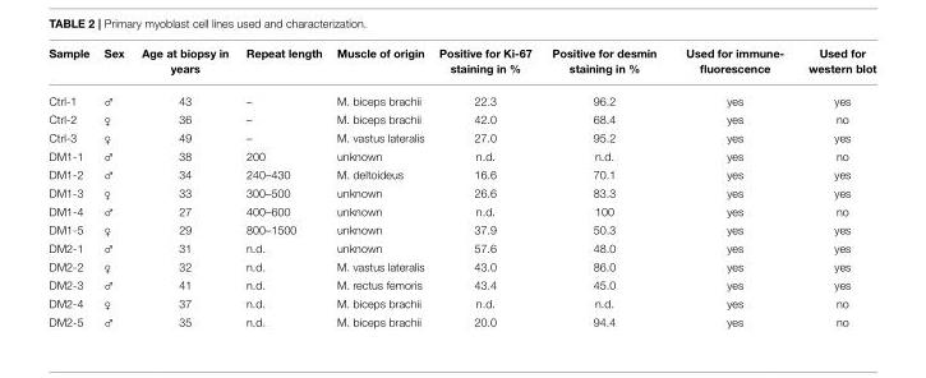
<table><thead><tr><td>Sample</td><td>Sex</td><td>Age at biopsy in years</td><td>Repeat length</td><td>Muscle of origin</td><td>Positive for Ki-67 staining in %</td><td>Positive for desmin staining in %</td><td>Used for immune- fluorescence</td><td>Used for western blot</td></tr></thead><tbody><tr><td>Ctrl-1</td><td>♂</td><td>43</td><td>–</td><td>M. biceps brachii</td><td>22.3</td><td>96.2</td><td>yes</td><td>yes</td></tr><tr><td>Ctrl-2</td><td>♀</td><td>36</td><td>–</td><td>M. biceps brachii</td><td>42.0</td><td>68.4</td><td>yes</td><td>no</td></tr><tr><td>Ctrl-3</td><td>♀</td><td>49</td><td>–</td><td>M. vastus lateralis</td><td>27.0</td><td>95.2</td><td>yes</td><td>yes</td></tr><tr><td>DM1-1</td><td>♂</td><td>38</td><td>200</td><td>unknown</td><td>n.d.</td><td>n.d.</td><td>yes</td><td>no</td></tr><tr><td>DM1-2</td><td>♂</td><td>34</td><td>240–430</td><td>M. deltoideus</td><td>16.6</td><td>70.1</td><td>yes</td><td>yes</td></tr><tr><td>DM1-3</td><td>♀</td><td>33</td><td>300–500</td><td>unknown</td><td>26.6</td><td>83.3</td><td>yes</td><td>yes</td></tr><tr><td>DM1-4</td><td>♂</td><td>27</td><td>400–600</td><td>unknown</td><td>n.d.</td><td>100</td><td>yes</td><td>no</td></tr><tr><td>DM1-5</td><td>♀</td><td>29</td><td>800–1500</td><td>unknown</td><td>37.9</td><td>50.3</td><td>yes</td><td>yes</td></tr><tr><td>DM2-1</td><td>♂</td><td>31</td><td>n.d.</td><td>unknown</td><td>57.6</td><td>48.0</td><td>yes</td><td>yes</td></tr><tr><td>DM2-2</td><td>♀</td><td>32</td><td>n.d.</td><td>M. vastus lateralis</td><td>43.0</td><td>86.0</td><td>yes</td><td>yes</td></tr><tr><td>DM2-3</td><td>♂</td><td>41</td><td>n.d.</td><td>M. rectus femoris</td><td>43.4</td><td>45.0</td><td>yes</td><td>yes</td></tr><tr><td>DM2-4</td><td>♀</td><td>37</td><td>n.d.</td><td>M. biceps brachii</td><td>n.d.</td><td>n.d.</td><td>yes</td><td>no</td></tr><tr><td>DM2-5</td><td>♂</td><td>35</td><td>n.d.</td><td>M. biceps brachii</td><td>20.0</td><td>94.4</td><td>yes</td><td>no</td></tr></tbody></table>